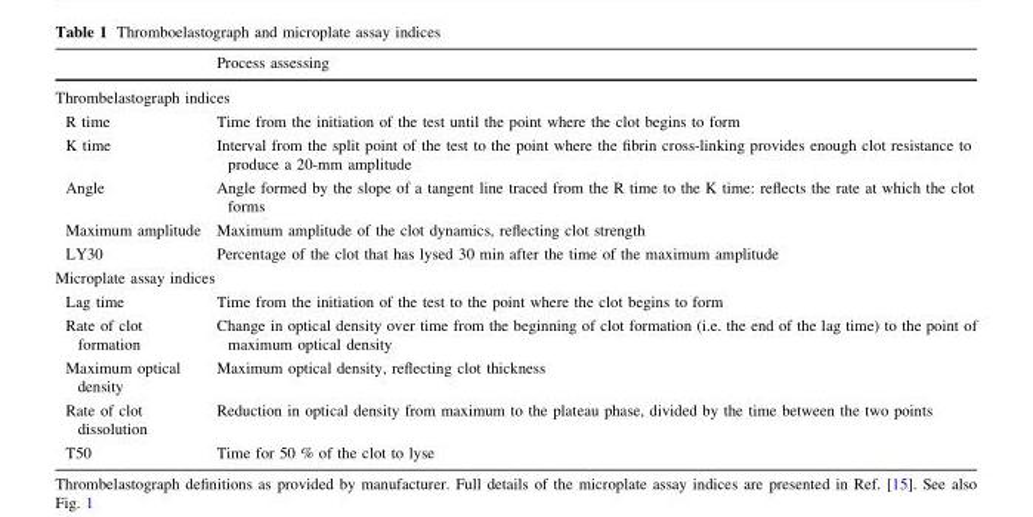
<table><thead><tr><td></td><td>Process assessing</td></tr></thead><tbody><tr><td colspan="2">Thrombelastograph indices</td></tr><tr><td>R time</td><td>Time from the initiation of the test until the point where the clot begins to form</td></tr><tr><td>K time</td><td>Interval from the split point of the test to the point where the fibrin cross-linking provides enough clot resistance to produce a 20-mm amplitude</td></tr><tr><td>Angle</td><td>Angle formed by the slope of a tangent line traced from the R time to the K time: reflects the rate at which the clot forms</td></tr><tr><td>Maximum amplitude</td><td>Maximum amplitude of the clot dynamics, reflecting clot strength</td></tr><tr><td>LY30</td><td>Percentage of the clot that has lysed 30 min after the time of the maximum amplitude</td></tr><tr><td colspan="2">Microplate assay indices</td></tr><tr><td>Lag time</td><td>Time from the initiation of the test to the point where the clot begins to form</td></tr><tr><td>Rate of clot formation</td><td>Change in optical density over time from the beginning of clot formation (i.e. the end of the lag time) to the point of maximum optical density</td></tr><tr><td>Maximum optical density</td><td>Maximum optical density, reflecting clot thickness</td></tr><tr><td>Rate of clot dissolution</td><td>Reduction in optical density from maximum to the plateau phase, divided by the time between the two points</td></tr><tr><td>T50</td><td>Time for 50 % of the clot to lyse</td></tr></tbody></table>